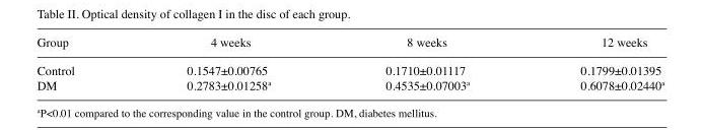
<table><thead><tr><td>Group</td><td>4 weeks</td><td>8 weeks</td><td>12 weeks</td></tr></thead><tbody><tr><td>Control</td><td>0.1547±0.00765</td><td>0.1710±0.01117</td><td>0.1799±0.01395</td></tr><tr><td>DM</td><td>0.2783±0.01258a</td><td>0.4535±0.07003a</td><td>0.6078±0.02440a</td></tr></tbody></table>